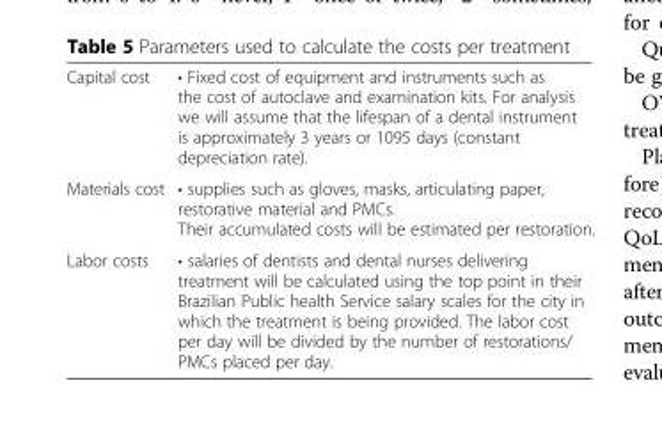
<table><tbody><tr><td>Capital cost</td><td>• Fixed cost of equipment and instruments such as the cost of autoclave and examination kits. For analysis we will assume that the lifespan of a dental instrument is approximately 3 years or 1095 days (constant depreciation rate).</td></tr><tr><td>Materials cost</td><td>• supplies such as gloves, masks, articulating paper, restorative material and PMCs. Their accumulated costs will be estimated per restoration.</td></tr><tr><td>Labor costs</td><td>• salaries of dentists and dental nurses delivering treatment will be calculated using the top point in their Brazilian Public health Service salary scales for the city in which the treatment is being provided. The labor cost per day will be divided by the number of restorations/ PMCs placed per day.</td></tr></tbody></table>